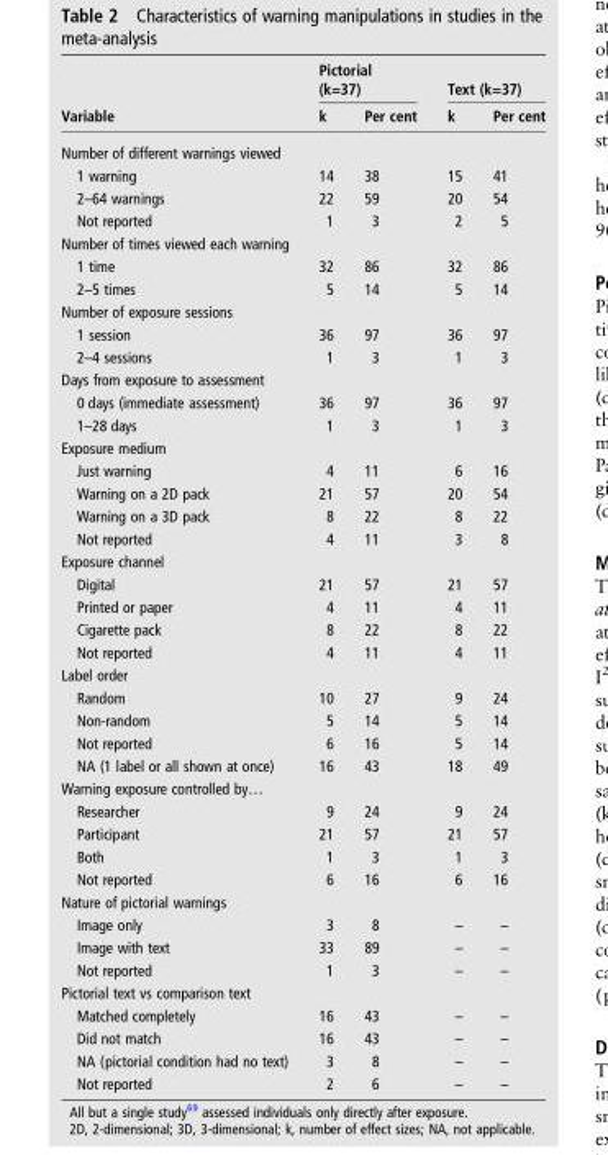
<table><thead><tr><td rowspan="2">Variable</td><td colspan="2">Pictorial (k=37)</td><td colspan="2">Text (k=37)</td></tr><tr><td>k</td><td>Per cent</td><td>k</td><td>Per cent</td></tr></thead><tbody><tr><td colspan="5">Number of different warnings viewed</td></tr><tr><td>1 warning</td><td>14</td><td>38</td><td>15</td><td>41</td></tr><tr><td>2–64 warnings</td><td>22</td><td>59</td><td>20</td><td>54</td></tr><tr><td>Not reported</td><td>1</td><td>3</td><td>2</td><td>5</td></tr><tr><td colspan="5">Number of times viewed each warning</td></tr><tr><td>1 time</td><td>32</td><td>86</td><td>32</td><td>86</td></tr><tr><td>2–5 times</td><td>5</td><td>14</td><td>5</td><td>14</td></tr><tr><td colspan="5">Number of exposure sessions</td></tr><tr><td>1 session</td><td>36</td><td>97</td><td>36</td><td>97</td></tr><tr><td>2–4 sessions</td><td>1</td><td>3</td><td>1</td><td>3</td></tr><tr><td colspan="5">Days from exposure to assessment</td></tr><tr><td>0 days (immediate assessment)</td><td>36</td><td>97</td><td>36</td><td>97</td></tr><tr><td>1–28 days</td><td>1</td><td>3</td><td>1</td><td>3</td></tr><tr><td colspan="5">Exposure medium</td></tr><tr><td>Just warning</td><td>4</td><td>11</td><td>6</td><td>16</td></tr><tr><td>Warning on a 2D pack</td><td>21</td><td>57</td><td>20</td><td>54</td></tr><tr><td>Warning on a 3D pack</td><td>8</td><td>22</td><td>8</td><td>22</td></tr><tr><td>Not reported</td><td>4</td><td>11</td><td>3</td><td>8</td></tr><tr><td colspan="5">Exposure channel</td></tr><tr><td>Digital</td><td>21</td><td>57</td><td>21</td><td>57</td></tr><tr><td>Printed or paper</td><td>4</td><td>11</td><td>4</td><td>11</td></tr><tr><td>Cigarette pack</td><td>8</td><td>22</td><td>8</td><td>22</td></tr><tr><td>Not reported</td><td>4</td><td>11</td><td>4</td><td>11</td></tr><tr><td colspan="5">Label order</td></tr><tr><td>Random</td><td>10</td><td>27</td><td>9</td><td>24</td></tr><tr><td>Non-random</td><td>5</td><td>14</td><td>5</td><td>14</td></tr><tr><td>Not reported</td><td>6</td><td>16</td><td>5</td><td>14</td></tr><tr><td>NA (1 label or all shown at once)</td><td>16</td><td>43</td><td>18</td><td>49</td></tr><tr><td colspan="5">Warning exposure controlled by…</td></tr><tr><td>Researcher</td><td>9</td><td>24</td><td>9</td><td>24</td></tr><tr><td>Participant</td><td>21</td><td>57</td><td>21</td><td>57</td></tr><tr><td>Both</td><td>1</td><td>3</td><td>1</td><td>3</td></tr><tr><td>Not reported</td><td>6</td><td>16</td><td>6</td><td>16</td></tr><tr><td colspan="5">Nature of pictorial warnings</td></tr><tr><td>Image only</td><td>3</td><td>8</td><td>–</td><td>–</td></tr><tr><td>Image with text</td><td>33</td><td>89</td><td>–</td><td>–</td></tr><tr><td>Not reported</td><td>1</td><td>3</td><td>–</td><td>–</td></tr><tr><td colspan="5">Pictorial text vs comparison text</td></tr><tr><td>Matched completely</td><td>16</td><td>43</td><td>–</td><td>–</td></tr><tr><td>Did not match</td><td>16</td><td>43</td><td>–</td><td>–</td></tr><tr><td>NA (pictorial condition had no text)</td><td>3</td><td>8</td><td>–</td><td>–</td></tr><tr><td>Not reported</td><td>2</td><td>6</td><td>–</td><td>–</td></tr></tbody></table>